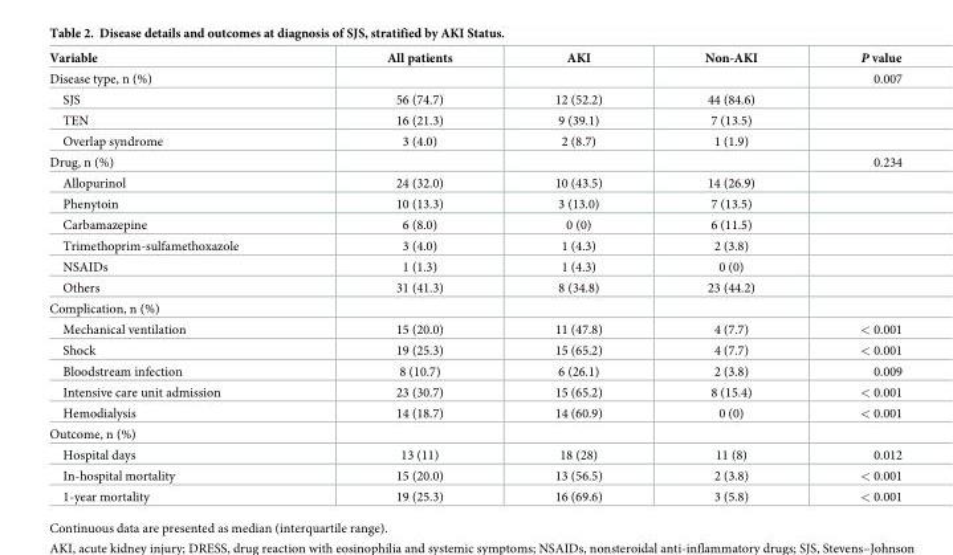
<table><thead><tr><td>Variable</td><td>All patients</td><td>AKI</td><td>Non-AKI</td><td>P value</td></tr></thead><tbody><tr><td>Disease type, n (%)</td><td></td><td></td><td></td><td>0.007</td></tr><tr><td>SJS</td><td>56 (74.7)</td><td>12 (52.2)</td><td>44 (84.6)</td><td></td></tr><tr><td>TEN</td><td>16 (21.3)</td><td>9 (39.1)</td><td>7 (13.5)</td><td></td></tr><tr><td>Overlap syndrome</td><td>3 (4.0)</td><td>2 (8.7)</td><td>1 (1.9)</td><td></td></tr><tr><td>Drug, n (%)</td><td></td><td></td><td></td><td>0.234</td></tr><tr><td>Allopurinol</td><td>24 (32.0)</td><td>10 (43.5)</td><td>14 (26.9)</td><td></td></tr><tr><td>Phenytoin</td><td>10 (13.3)</td><td>3 (13.0)</td><td>7 (13.5)</td><td></td></tr><tr><td>Carbamazepine</td><td>6 (8.0)</td><td>0 (0)</td><td>6 (11.5)</td><td></td></tr><tr><td>Trimethoprim-sulfamethoxazole</td><td>3 (4.0)</td><td>1 (4.3)</td><td>2 (3.8)</td><td></td></tr><tr><td>NSAIDs</td><td>1 (1.3)</td><td>1 (4.3)</td><td>0 (0)</td><td></td></tr><tr><td>Others</td><td>31 (41.3)</td><td>8 (34.8)</td><td>23 (44.2)</td><td></td></tr><tr><td colspan="5">Complication, n (%)</td></tr><tr><td>Mechanical ventilation</td><td>15 (20.0)</td><td>11 (47.8)</td><td>4 (7.7)</td><td>&lt; 0.001</td></tr><tr><td>Shock</td><td>19 (25.3)</td><td>15 (65.2)</td><td>4 (7.7)</td><td>&lt; 0.001</td></tr><tr><td>Bloodstream infection</td><td>8 (10.7)</td><td>6 (26.1)</td><td>2 (3.8)</td><td>0.009</td></tr><tr><td>Intensive care unit admission</td><td>23 (30.7)</td><td>15 (65.2)</td><td>8 (15.4)</td><td>&lt; 0.001</td></tr><tr><td>Hemodialysis</td><td>14 (18.7)</td><td>14 (60.9)</td><td>0 (0)</td><td>&lt; 0.001</td></tr><tr><td colspan="5">Outcome, n (%)</td></tr><tr><td>Hospital days</td><td>13 (11)</td><td>18 (28)</td><td>11 (8)</td><td>0.012</td></tr><tr><td>In-hospital mortality</td><td>15 (20.0)</td><td>13 (56.5)</td><td>2 (3.8)</td><td>&lt; 0.001</td></tr><tr><td>1-year mortality</td><td>19 (25.3)</td><td>16 (69.6)</td><td>3 (5.8)</td><td>&lt; 0.001</td></tr></tbody></table>